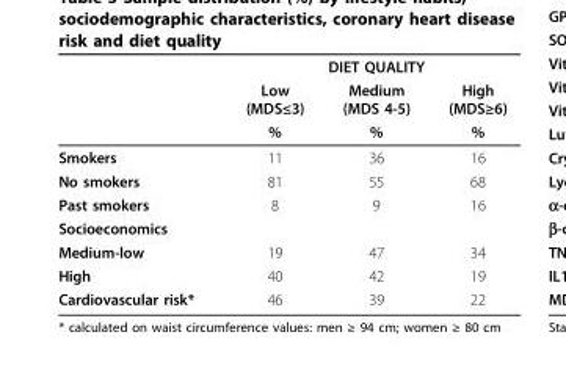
<table><thead><tr><td rowspan="3"></td><td colspan="3">DIET QUALITY</td></tr><tr><td rowspan="2">Low (MDS≤3) %</td><td rowspan="2">Medium (MDS 4-5) %</td><td rowspan="2">High (MDS≥6) %</td></tr><tr></tr></thead><tbody><tr><td>Smokers</td><td>11</td><td>36</td><td>16</td></tr><tr><td>No smokers</td><td>81</td><td>55</td><td>68</td></tr><tr><td>Past smokers</td><td>8</td><td>9</td><td>16</td></tr><tr><td colspan="4">Socioeconomics</td></tr><tr><td>Medium-low</td><td>19</td><td>47</td><td>34</td></tr><tr><td>High</td><td>40</td><td>42</td><td>19</td></tr><tr><td>Cardiovascular risk*</td><td>46</td><td>39</td><td>22</td></tr></tbody></table>